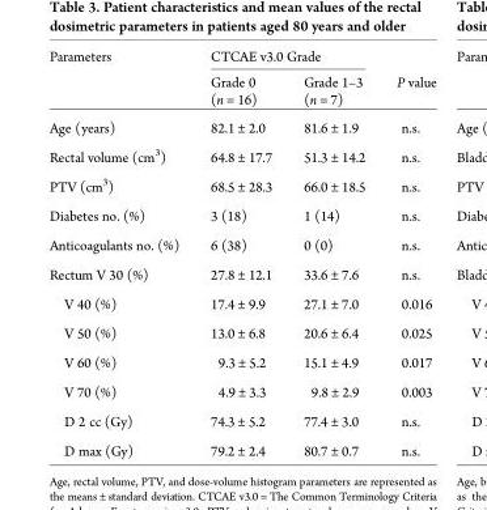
<table><thead><tr><td rowspan="2">Parameters</td><td colspan="2">CTCAE v3.0 Grade</td><td rowspan="2">P value</td></tr><tr><td>Grade 0 (n = 16)</td><td>Grade 1–3 (n = 7)</td></tr></thead><tbody><tr><td>Age (years)</td><td>82.1 ± 2.0</td><td>81.6 ± 1.9</td><td>n.s.</td></tr><tr><td>Rectal volume (cm<sup>3</sup>)</td><td>64.8 ± 17.7</td><td>51.3 ± 14.2</td><td>n.s.</td></tr><tr><td>PTV (cm<sup>3</sup>)</td><td>68.5 ± 28.3</td><td>66.0 ± 18.5</td><td>n.s.</td></tr><tr><td>Diabetes no. (%)</td><td>3 (18)</td><td>1 (14)</td><td>n.s.</td></tr><tr><td>Anticoagulants no. (%)</td><td>6 (38)</td><td>0 (0)</td><td>n.s.</td></tr><tr><td>Rectum V 30 (%)</td><td>27.8 ± 12.1</td><td>33.6 ± 7.6</td><td>n.s.</td></tr><tr><td>V 40 (%)</td><td>17.4 ± 9.9</td><td>27.1 ± 7.0</td><td>0.016</td></tr><tr><td>V 50 (%)</td><td>13.0 ± 6.8</td><td>20.6 ± 6.4</td><td>0.025</td></tr><tr><td>V 60 (%)</td><td>9.3 ± 5.2</td><td>15.1 ± 4.9</td><td>0.017</td></tr><tr><td>V 70 (%)</td><td>4.9 ± 3.3</td><td>9.8 ± 2.9</td><td>0.003</td></tr><tr><td>D 2 cc (Gy)</td><td>74.3 ± 5.2</td><td>77.4 ± 3.0</td><td>n.s.</td></tr><tr><td>D max (Gy)</td><td>79.2 ± 2.4</td><td>80.7 ± 0.7</td><td>n.s.</td></tr></tbody></table>